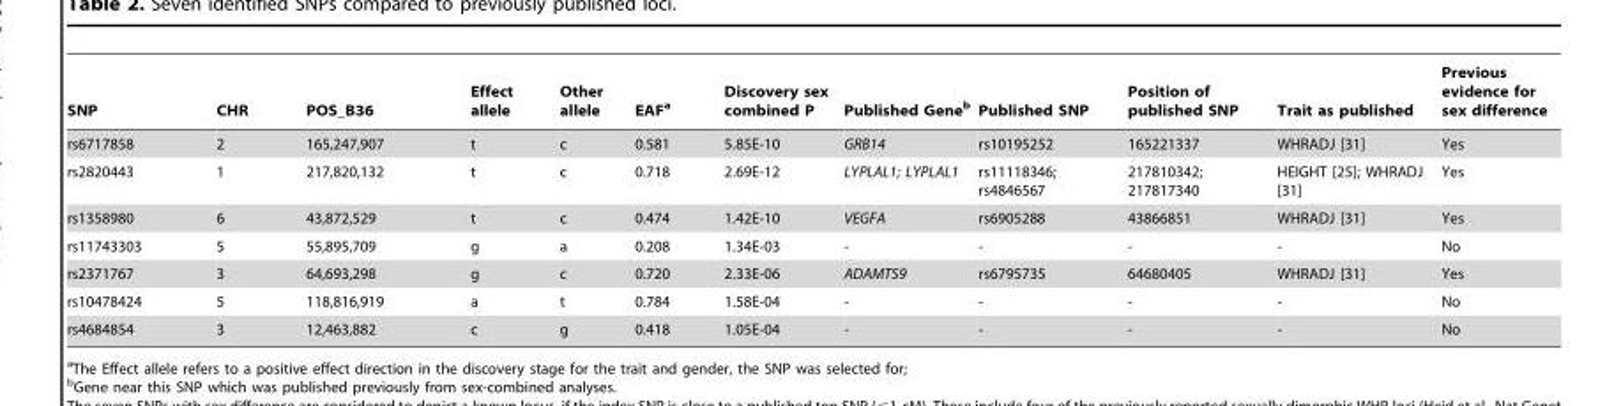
<table><thead><tr><td>SNP</td><td>CHR</td><td>POS_B36</td><td>Effect allele</td><td>Other allele</td><td>EAF<sup>a</sup></td><td>Discovery sex combined P</td><td>Published Gene<sup>b</sup></td><td>Published SNP</td><td>Position of published SNP</td><td>Trait as published</td><td>Previous evidence for sex difference</td></tr></thead><tbody><tr><td>rs6717858</td><td>2</td><td>165,247,907</td><td>t</td><td>c</td><td>0.581</td><td>5.85E-10</td><td>GRB14</td><td>rs10195252</td><td>165221337</td><td>WHRADJ [31]</td><td>Yes</td></tr><tr><td>rs2820443</td><td>1</td><td>217,820,132</td><td>t</td><td>c</td><td>0.718</td><td>2.69E-12</td><td>LYPLAL1; LYPLAL1</td><td>rs11118346; rs4846567</td><td>217810342; 217817340</td><td>HEIGHT [25]; WHRADJ [31]</td><td>Yes</td></tr><tr><td>rs1358980</td><td>6</td><td>43,872,529</td><td>t</td><td>c</td><td>0.474</td><td>1.42E-10</td><td>VEGFA</td><td>rs6905288</td><td>43866851</td><td>WHRADJ [31]</td><td>Yes</td></tr><tr><td>rs11743303</td><td>5</td><td>55,895,709</td><td>g</td><td>a</td><td>0.208</td><td>1.34E-03</td><td>-</td><td>-</td><td>-</td><td>-</td><td>No</td></tr><tr><td>rs2371767</td><td>3</td><td>64,693,298</td><td>g</td><td>c</td><td>0.720</td><td>2.33E-06</td><td>ADAMTS9</td><td>rs6795735</td><td>64680405</td><td>WHRADJ [31]</td><td>Yes</td></tr><tr><td>rs10478424</td><td>5</td><td>118,816,919</td><td>a</td><td>t</td><td>0.784</td><td>1.58E-04</td><td>-</td><td>-</td><td>-</td><td>-</td><td>No</td></tr><tr><td>rs4684854</td><td>3</td><td>12,463,882</td><td>c</td><td>g</td><td>0.418</td><td>1.05E-04</td><td>-</td><td>-</td><td>-</td><td>-</td><td>No</td></tr></tbody></table>